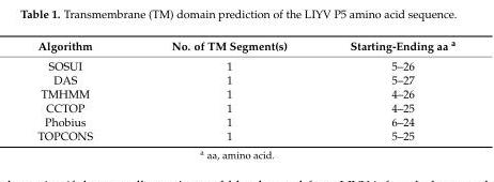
<table><thead><tr><td>Algorithm</td><td>No. of TM Segment(s)</td><td>Starting-Ending aa <sup>a</sup></td></tr></thead><tbody><tr><td>SOSUI</td><td>1</td><td>5–26</td></tr><tr><td>DAS</td><td>1</td><td>5–27</td></tr><tr><td>TMHMM</td><td>1</td><td>4–26</td></tr><tr><td>CCTOP</td><td>1</td><td>4–25</td></tr><tr><td>Phobius</td><td>1</td><td>6–24</td></tr><tr><td>TOPCONS</td><td>1</td><td>5–25</td></tr></tbody></table>